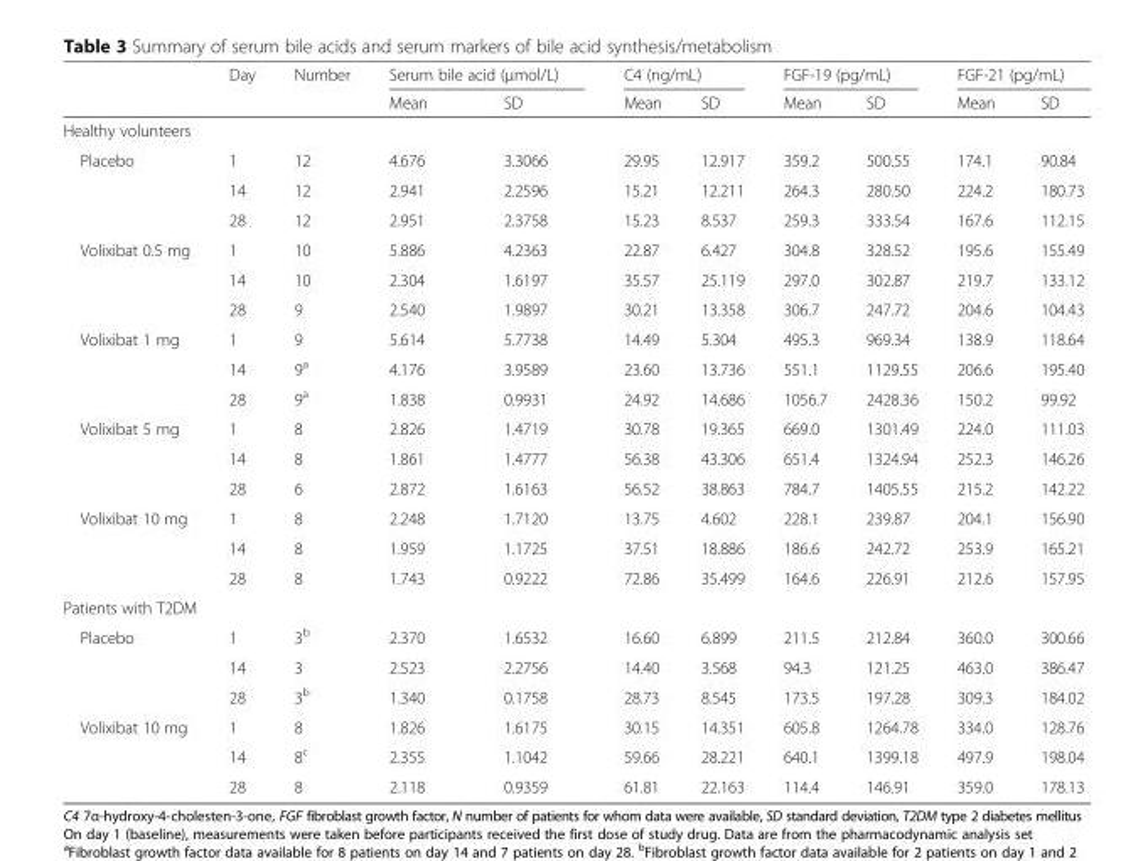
<table><thead><tr><td rowspan="2"></td><td rowspan="2">Day</td><td rowspan="2">Number</td><td colspan="2">Serum bile acid (μmol/L)</td><td colspan="2">C4 (ng/mL)</td><td colspan="2">FGF-19 (pg/mL)</td><td colspan="2">FGF-21 (pg/mL)</td></tr><tr><td>Mean</td><td>SD</td><td>Mean</td><td>SD</td><td>Mean</td><td>SD</td><td>Mean</td><td>SD</td></tr></thead><tbody><tr><td colspan="11">Healthy volunteers</td></tr><tr><td rowspan="3">Placebo</td><td>1</td><td>12</td><td>4.676</td><td>3.3066</td><td>29.95</td><td>12.917</td><td>359.2</td><td>500.55</td><td>174.1</td><td>90.84</td></tr><tr><td>14</td><td>12</td><td>2.941</td><td>2.2596</td><td>15.21</td><td>12.211</td><td>264.3</td><td>280.50</td><td>224.2</td><td>180.73</td></tr><tr><td>28</td><td>12</td><td>2.951</td><td>2.3758</td><td>15.23</td><td>8.537</td><td>259.3</td><td>333.54</td><td>167.6</td><td>112.15</td></tr><tr><td rowspan="3">Volixibat 0.5 mg</td><td>1</td><td>10</td><td>5.886</td><td>4.2363</td><td>22.87</td><td>6.427</td><td>304.8</td><td>328.52</td><td>195.6</td><td>155.49</td></tr><tr><td>14</td><td>10</td><td>2.304</td><td>1.6197</td><td>35.57</td><td>25.119</td><td>297.0</td><td>302.87</td><td>219.7</td><td>133.12</td></tr><tr><td>28</td><td>9</td><td>2.540</td><td>1.9897</td><td>30.21</td><td>13.358</td><td>306.7</td><td>247.72</td><td>204.6</td><td>104.43</td></tr><tr><td rowspan="3">Volixibat 1 mg</td><td>1</td><td>9</td><td>5.614</td><td>5.7738</td><td>14.49</td><td>5.304</td><td>495.3</td><td>969.34</td><td>138.9</td><td>118.64</td></tr><tr><td>14</td><td>9<sup>a</sup></td><td>4.176</td><td>3.9589</td><td>23.60</td><td>13.736</td><td>551.1</td><td>1129.55</td><td>206.6</td><td>195.40</td></tr><tr><td>28</td><td>9<sup>a</sup></td><td>1.838</td><td>0.9931</td><td>24.92</td><td>14.686</td><td>1056.7</td><td>2428.36</td><td>150.2</td><td>99.92</td></tr><tr><td rowspan="3">Volixibat 5 mg</td><td>1</td><td>8</td><td>2.826</td><td>1.4719</td><td>30.78</td><td>19.365</td><td>669.0</td><td>1301.49</td><td>224.0</td><td>111.03</td></tr><tr><td>14</td><td>8</td><td>1.861</td><td>1.4777</td><td>56.38</td><td>43.306</td><td>651.4</td><td>1324.94</td><td>252.3</td><td>146.26</td></tr><tr><td>28</td><td>6</td><td>2.872</td><td>1.6163</td><td>56.52</td><td>38.863</td><td>784.7</td><td>1405.55</td><td>215.2</td><td>142.22</td></tr><tr><td rowspan="3">Volixibat 10 mg</td><td>1</td><td>8</td><td>2.248</td><td>1.7120</td><td>13.75</td><td>4.602</td><td>228.1</td><td>239.87</td><td>204.1</td><td>156.90</td></tr><tr><td>14</td><td>8</td><td>1.959</td><td>1.1725</td><td>37.51</td><td>18.886</td><td>186.6</td><td>242.72</td><td>253.9</td><td>165.21</td></tr><tr><td>28</td><td>8</td><td>1.743</td><td>0.9222</td><td>72.86</td><td>35.499</td><td>164.6</td><td>226.91</td><td>212.6</td><td>157.95</td></tr><tr><td colspan="11">Patients with T2DM</td></tr><tr><td rowspan="3">Placebo</td><td>1</td><td>3<sup>b</sup></td><td>2.370</td><td>1.6532</td><td>16.60</td><td>6.899</td><td>211.5</td><td>212.84</td><td>360.0</td><td>300.66</td></tr><tr><td>14</td><td>3</td><td>2.523</td><td>2.2756</td><td>14.40</td><td>3.568</td><td>94.3</td><td>121.25</td><td>463.0</td><td>386.47</td></tr><tr><td>28</td><td>3<sup>b</sup></td><td>1.340</td><td>0.1758</td><td>28.73</td><td>8.545</td><td>173.5</td><td>197.28</td><td>309.3</td><td>184.02</td></tr><tr><td rowspan="3">Volixibat 10 mg</td><td>1</td><td>8</td><td>1.826</td><td>1.6175</td><td>30.15</td><td>14.351</td><td>605.8</td><td>1264.78</td><td>334.0</td><td>128.76</td></tr><tr><td>14</td><td>8<sup>c</sup></td><td>2.355</td><td>1.1042</td><td>59.66</td><td>28.221</td><td>640.1</td><td>1399.18</td><td>497.9</td><td>198.04</td></tr><tr><td>28</td><td>8</td><td>2.118</td><td>0.9359</td><td>61.81</td><td>22.163</td><td>114.4</td><td>146.91</td><td>359.0</td><td>178.13</td></tr></tbody></table>